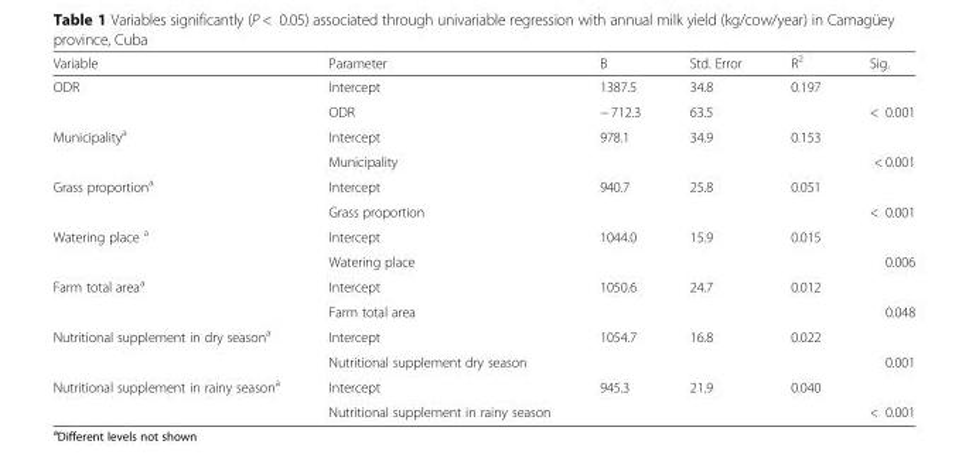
<table><thead><tr><td>Variable</td><td>Parameter</td><td>B</td><td>Std. Error</td><td>R<sup>2</sup></td><td>Sig.</td></tr></thead><tbody><tr><td rowspan="2">ODR</td><td>Intercept</td><td>1387.5</td><td>34.8</td><td rowspan="2">0.197</td><td></td></tr><tr><td>ODR</td><td>− 712.3</td><td>63.5</td><td>&lt; 0.001</td></tr><tr><td rowspan="2">Municipality<sup>a</sup></td><td>Intercept</td><td>978.1</td><td>34.9</td><td rowspan="2">0.153</td><td></td></tr><tr><td>Municipality</td><td></td><td></td><td>&lt; 0.001</td></tr><tr><td rowspan="2">Grass proportion<sup>a</sup></td><td>Intercept</td><td>940.7</td><td>25.8</td><td rowspan="2">0.051</td><td></td></tr><tr><td>Grass proportion</td><td></td><td></td><td>&lt; 0.001</td></tr><tr><td rowspan="2">Watering place <sup>a</sup></td><td>Intercept</td><td>1044.0</td><td>15.9</td><td rowspan="2">0.015</td><td></td></tr><tr><td>Watering place</td><td></td><td></td><td>0.006</td></tr><tr><td rowspan="2">Farm total area<sup>a</sup></td><td>Intercept</td><td>1050.6</td><td>24.7</td><td rowspan="2">0.012</td><td></td></tr><tr><td>Farm total area</td><td></td><td></td><td>0.048</td></tr><tr><td rowspan="2">Nutritional supplement in dry season<sup>a</sup></td><td>Intercept</td><td>1054.7</td><td>16.8</td><td rowspan="2">0.022</td><td></td></tr><tr><td>Nutritional supplement dry season</td><td></td><td></td><td>0.001</td></tr><tr><td rowspan="2">Nutritional supplement in rainy season<sup>a</sup></td><td>Intercept</td><td>945.3</td><td>21.9</td><td rowspan="2">0.040</td><td></td></tr><tr><td>Nutritional supplement in rainy season</td><td></td><td></td><td>&lt; 0.001</td></tr></tbody></table>